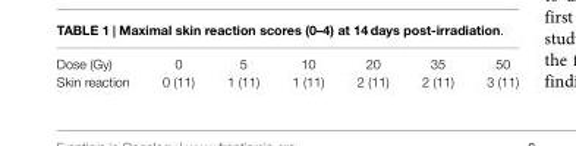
<table><tbody><tr><td>Dose (Gy)</td><td>0</td><td>5</td><td>10</td><td>20</td><td>35</td><td>50</td></tr><tr><td>Skin reaction</td><td>0 (11)</td><td>1 (11)</td><td>1 (11)</td><td>2 (11)</td><td>2 (11)</td><td>3 (11)</td></tr></tbody></table>